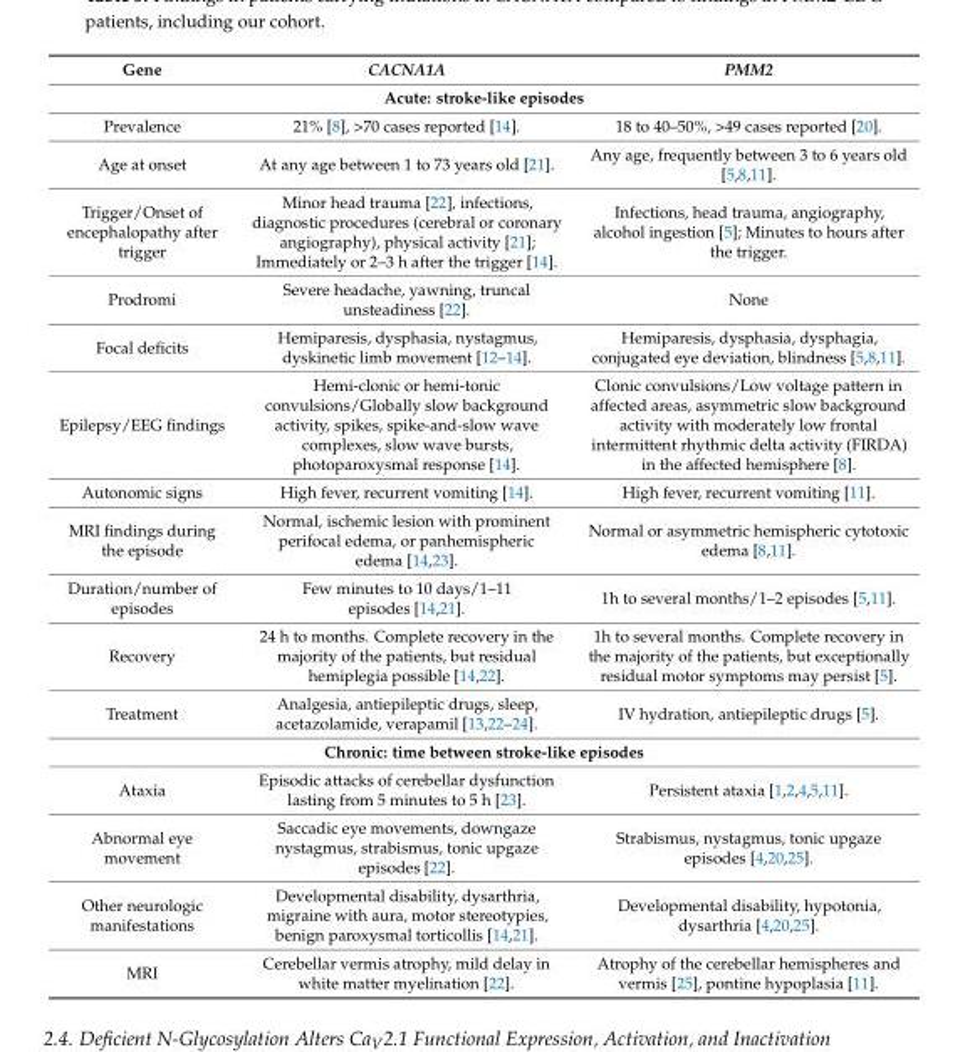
<table><thead><tr><td>Gene</td><td>CACNA1A</td><td>PMM2</td></tr></thead><tbody><tr><td colspan="3">Acute: stroke-like episodes</td></tr><tr><td>Prevalence</td><td>21% [8], &gt;70 cases reported [14].</td><td>18 to 40–50%, &gt;49 cases reported [20].</td></tr><tr><td>Age at onset</td><td>At any age between 1 to 73 years old [21].</td><td>Any age, frequently between 3 to 6 years old [5,8,11].</td></tr><tr><td>Trigger/Onset of encephalopathy after trigger</td><td>Minor head trauma [22], infections, diagnostic procedures (cerebral or coronary angiography), physical activity [21]; Immediately or 2–3 h after the trigger [14].</td><td>Infections, head trauma, angiography, alcohol ingestion [5]; Minutes to hours after the trigger.</td></tr><tr><td>Prodromi</td><td>Severe headache, yawning, truncal unsteadiness [22].</td><td>None</td></tr><tr><td>Focal deficits</td><td>Hemiparesis, dysphasia, nystagmus, dyskinetic limb movement [12–14].</td><td>Hemiparesis, dysphasia, dysphagia, conjugated eye deviation, blindness [5,8,11].</td></tr><tr><td>Epilepsy/EEG findings</td><td>Hemi-clonic or hemi-tonic convulsions/Globally slow background activity, spikes, spike-and-slow wave complexes, slow wave bursts, photoparoxysmal response [14].</td><td>Clonic convulsions/Low voltage pattern in affected areas, asymmetric slow background activity with moderately low frontal intermittent rhythmic delta activity (FIRDA) in the affected hemisphere [8].</td></tr><tr><td>Autonomic signs</td><td>High fever, recurrent vomiting [14].</td><td>High fever, recurrent vomiting [11].</td></tr><tr><td>MRI findings during the episode</td><td>Normal, ischemic lesion with prominent perifocal edema, or panhemispheric edema [14,23].</td><td>Normal or asymmetric hemispheric cytotoxic edema [8,11].</td></tr><tr><td>Duration/number of episodes</td><td>Few minutes to 10 days/1–11 episodes [14,21].</td><td>1h to several months/1–2 episodes [5,11].</td></tr><tr><td>Recovery</td><td>24 h to months. Complete recovery in the majority of the patients, but residual hemiplegia possible [14,22].</td><td>1h to several months. Complete recovery in the majority of the patients, but exceptionally residual motor symptoms may persist [5].</td></tr><tr><td>Treatment</td><td>Analgesia, antiepileptic drugs, sleep, acetazolamide, verapamil [13,22–24].</td><td>IV hydration, antiepileptic drugs [5].</td></tr><tr><td colspan="3">Chronic: time between stroke-like episodes</td></tr><tr><td>Ataxia</td><td>Episodic attacks of cerebellar dysfunction lasting from 5 minutes to 5 h [23].</td><td>Persistent ataxia [1,2,4,5,11].</td></tr><tr><td>Abnormal eye movement</td><td>Saccadic eye movements, downgaze nystagmus, strabismus, tonic upgaze episodes [22].</td><td>Strabismus, nystagmus, tonic upgaze episodes [4,20,25].</td></tr><tr><td>Other neurologic manifestations</td><td>Developmental disability, dysarthria, migraine with aura, motor stereotypies, benign paroxysmal torticollis [14,21].</td><td>Developmental disability, hypotonia, dysarthria [4,20,25].</td></tr><tr><td>MRI</td><td>Cerebellar vermis atrophy, mild delay in white matter myelination [22].</td><td>Atrophy of the cerebellar hemispheres and vermis [25], pontine hypoplasia [11].</td></tr></tbody></table>